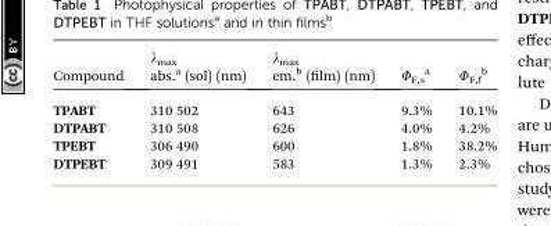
<table><thead><tr><td>Compound</td><td>λ<sub>max</sub> abs.<sup>a</sup> (sol) (nm)</td><td>lmax em.b (lm) (nm)</td><td>Φ<sub>F,s</sub> <sup>a</sup></td><td>Φ<sub>F,f</sub> <sup>b</sup></td></tr></thead><tbody><tr><td>TPABT</td><td>310 502</td><td>643</td><td>9.3%</td><td>10.1%</td></tr><tr><td>DTPABT</td><td>310 508</td><td>626</td><td>4.0%</td><td>4.2%</td></tr><tr><td>TPEBT</td><td>306 490</td><td>600</td><td>1.8%</td><td>38.2%</td></tr><tr><td>DTPEBT</td><td>309 491</td><td>583</td><td>1.3%</td><td>2.3%</td></tr></tbody></table>